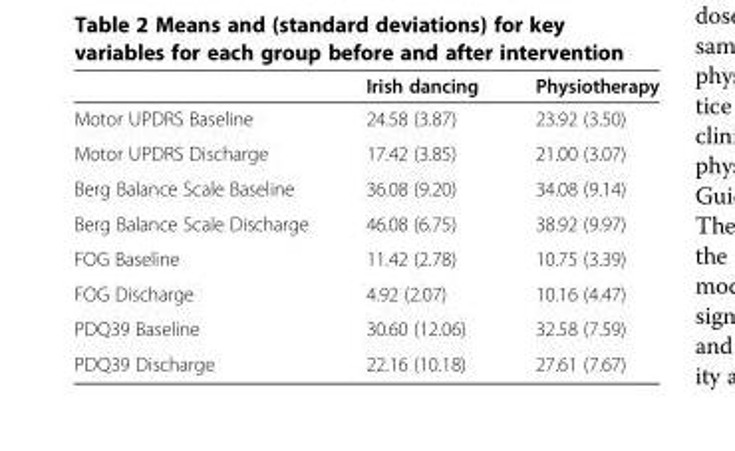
<table><thead><tr><td></td><td>Irish dancing</td><td>Physiotherapy</td></tr></thead><tbody><tr><td>Motor UPDRS Baseline</td><td>24.58 (3.87)</td><td>23.92 (3.50)</td></tr><tr><td>Motor UPDRS Discharge</td><td>17.42 (3.85)</td><td>21.00 (3.07)</td></tr><tr><td>Berg Balance Scale Baseline</td><td>36.08 (9.20)</td><td>34.08 (9.14)</td></tr><tr><td>Berg Balance Scale Discharge</td><td>46.08 (6.75)</td><td>38.92 (9.97)</td></tr><tr><td>FOG Baseline</td><td>11.42 (2.78)</td><td>10.75 (3.39)</td></tr><tr><td>FOG Discharge</td><td>4.92 (2.07)</td><td>10.16 (4.47)</td></tr><tr><td>PDQ39 Baseline</td><td>30.60 (12.06)</td><td>32.58 (7.59)</td></tr><tr><td>PDQ39 Discharge</td><td>22.16 (10.18)</td><td>27.61 (7.67)</td></tr></tbody></table>